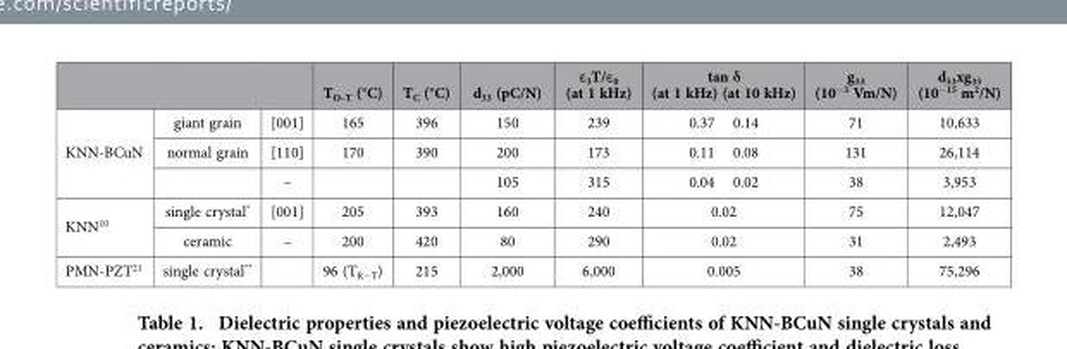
<table><thead><tr><td></td><td></td><td></td><td>T<sub>O–T</sub> (°C)</td><td>T<sub>C</sub> (°C)</td><td>d<sub>33</sub> (pC/N)</td><td>ε<sub>3</sub>T/ε<sub>0</sub> (at 1 kHz)</td><td>tan δ (at 1 kHz) (at 10 kHz)</td><td>g<sub>33</sub> (10<sup>−3</sup> Vm/N)</td><td>d<sub>33</sub>xg<sub>33</sub> (10<sup>−15</sup> m<sup>2</sup>/N)</td></tr></thead><tbody><tr><td rowspan="3">KNN-BCuN</td><td>giant grain</td><td>[001]</td><td>165</td><td>396</td><td>150</td><td>239</td><td>0.37 0.14</td><td>71</td><td>10,633</td></tr><tr><td>normal grain</td><td>[110]</td><td>170</td><td>390</td><td>200</td><td>173</td><td>0.11 0.08</td><td>131</td><td>26,114</td></tr><tr><td></td><td>–</td><td></td><td></td><td>105</td><td>315</td><td>0.04 0.02</td><td>38</td><td>3,953</td></tr><tr><td rowspan="2">KNN<sup>10</sup></td><td>single crystal*</td><td>[001]</td><td>205</td><td>393</td><td>160</td><td>240</td><td>0.02</td><td>75</td><td>12,047</td></tr><tr><td>ceramic</td><td>–</td><td>200</td><td>420</td><td>80</td><td>290</td><td>0.02</td><td>31</td><td>2,493</td></tr><tr><td>PMN-PZT<sup>21</sup></td><td>single crystal**</td><td></td><td>96 (T<sub>R−T</sub>)</td><td>215</td><td>2,000</td><td>6,000</td><td>0.005</td><td>38</td><td>75,296</td></tr></tbody></table>